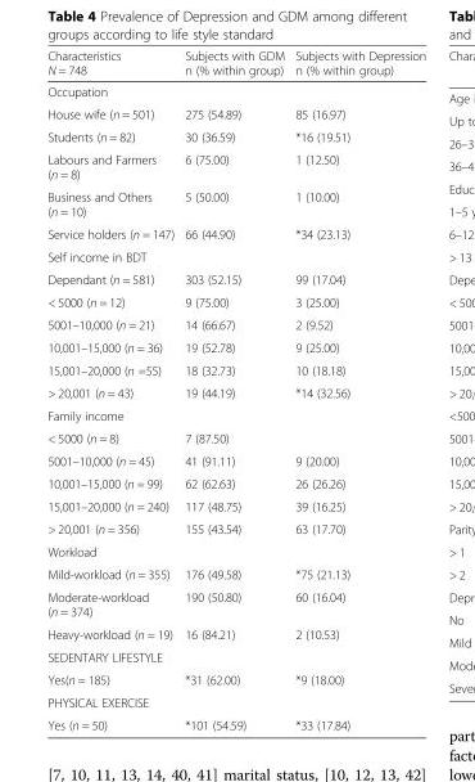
<table><thead><tr><td>Characteristics N = 748</td><td>Subjects with GDM n (% within group)</td><td>Subjects with Depression n (% within group)</td></tr></thead><tbody><tr><td colspan="3">Occupation</td></tr><tr><td>House wife (n = 501)</td><td>275 (54.89)</td><td>85 (16.97)</td></tr><tr><td>Students (n = 82)</td><td>30 (36.59)</td><td>*16 (19.51)</td></tr><tr><td>Labours and Farmers (n = 8)</td><td>6 (75.00)</td><td>1 (12.50)</td></tr><tr><td>Business and Others (n = 10)</td><td>5 (50.00)</td><td>1 (10.00)</td></tr><tr><td>Service holders (n = 147)</td><td>66 (44.90)</td><td>*34 (23.13)</td></tr><tr><td colspan="3">Self income in BDT</td></tr><tr><td>Dependant (n = 581)</td><td>303 (52.15)</td><td>99 (17.04)</td></tr><tr><td>&lt; 5000 (n = 12)</td><td>9 (75.00)</td><td>3 (25.00)</td></tr><tr><td>5001–10,000 (n = 21)</td><td>14 (66.67)</td><td>2 (9.52)</td></tr><tr><td>10,001–15,000 (n = 36)</td><td>19 (52.78)</td><td>9 (25.00)</td></tr><tr><td>15,001–20,000 (n =55)</td><td>18 (32.73)</td><td>10 (18.18)</td></tr><tr><td>&gt; 20,001 (n = 43)</td><td>19 (44.19)</td><td>*14 (32.56)</td></tr><tr><td colspan="3">Family income</td></tr><tr><td>&lt; 5000 (n = 8)</td><td>7 (87.50)</td><td></td></tr><tr><td>5001–10,000 (n = 45)</td><td>41 (91.11)</td><td>9 (20.00)</td></tr><tr><td>10,001–15,000 (n = 99)</td><td>62 (62.63)</td><td>26 (26.26)</td></tr><tr><td>15,001–20,000 (n = 240)</td><td>117 (48.75)</td><td>39 (16.25)</td></tr><tr><td>&gt; 20,001 (n = 356)</td><td>155 (43.54)</td><td>63 (17.70)</td></tr><tr><td colspan="3">Workload</td></tr><tr><td>Mild-workload (n = 355)</td><td>176 (49.58)</td><td>*75 (21.13)</td></tr><tr><td>Moderate-workload (n = 374)</td><td>190 (50.80)</td><td>60 (16.04)</td></tr><tr><td>Heavy-workload (n = 19)</td><td>16 (84.21)</td><td>2 (10.53)</td></tr><tr><td colspan="3">SEDENTARY LIFESTYLE</td></tr><tr><td>Yes(n = 185)</td><td>*31 (62.00)</td><td>*9 (18.00)</td></tr><tr><td colspan="3">PHYSICAL EXERCISE</td></tr><tr><td>Yes (n = 50)</td><td>*101 (54.59)</td><td>*33 (17.84)</td></tr></tbody></table>